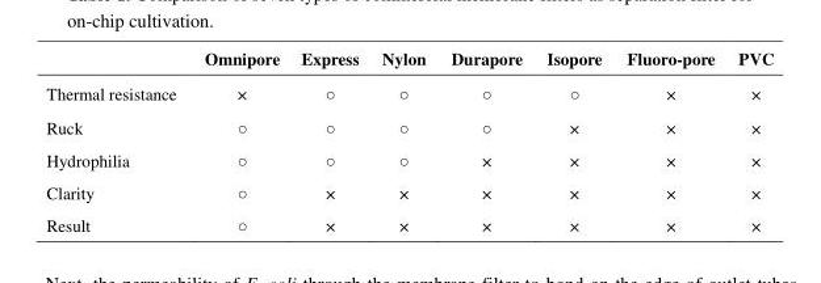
<table><thead><tr><td></td><td>Omnipore</td><td>Express</td><td>Nylon</td><td>Durapore</td><td>Isopore</td><td>Fluoro-pore</td><td>PVC</td></tr></thead><tbody><tr><td>Thermal resistance</td><td>×</td><td>○</td><td>○</td><td>○</td><td>○</td><td>×</td><td>×</td></tr><tr><td>Ruck</td><td>○</td><td>○</td><td>○</td><td>○</td><td>×</td><td>×</td><td>×</td></tr><tr><td>Hydrophilia</td><td>○</td><td>○</td><td>○</td><td>×</td><td>×</td><td>×</td><td>×</td></tr><tr><td>Clarity</td><td>○</td><td>×</td><td>×</td><td>×</td><td>×</td><td>×</td><td>×</td></tr><tr><td>Result</td><td>○</td><td>×</td><td>×</td><td>×</td><td>×</td><td>×</td><td>×</td></tr></tbody></table>